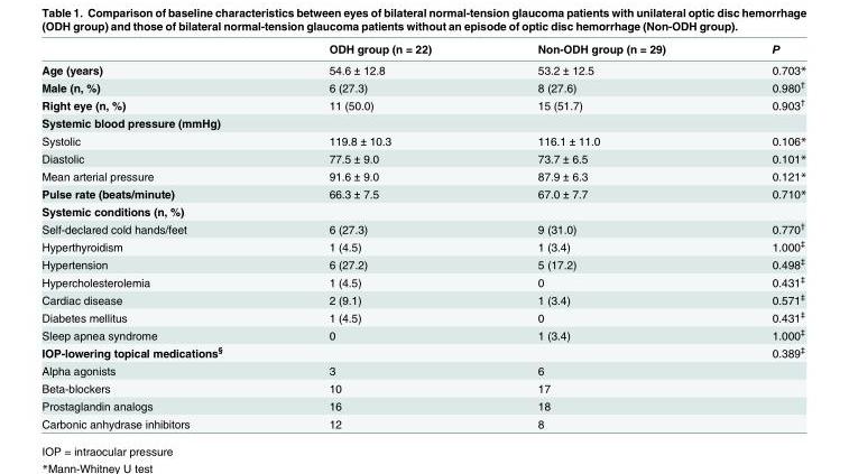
<table><thead><tr><td></td><td>ODH group (n = 22)</td><td>Non-ODH group (n = 29)</td><td>P</td></tr></thead><tbody><tr><td>Age (years)</td><td>54.6 ± 12.8</td><td>53.2 ± 12.5</td><td>0.703*</td></tr><tr><td>Male (n, %)</td><td>6 (27.3)</td><td>8 (27.6)</td><td>0.980<sup>†</sup></td></tr><tr><td>Right eye (n, %)</td><td>11 (50.0)</td><td>15 (51.7)</td><td>0.903<sup>†</sup></td></tr><tr><td colspan="4">Systemic blood pressure (mmHg)</td></tr><tr><td>Systolic</td><td>119.8 ± 10.3</td><td>116.1 ± 11.0</td><td>0.106*</td></tr><tr><td>Diastolic</td><td>77.5 ± 9.0</td><td>73.7 ± 6.5</td><td>0.101*</td></tr><tr><td>Mean arterial pressure</td><td>91.6 ± 9.0</td><td>87.9 ± 6.3</td><td>0.121*</td></tr><tr><td>Pulse rate (beats/minute)</td><td>66.3 ± 7.5</td><td>67.0 ± 7.7</td><td>0.710*</td></tr><tr><td colspan="4">Systemic conditions (n, %)</td></tr><tr><td>Self-declared cold hands/feet</td><td>6 (27.3)</td><td>9 (31.0)</td><td>0.770<sup>†</sup></td></tr><tr><td>Hyperthyroidism</td><td>1 (4.5)</td><td>1 (3.4)</td><td>1.000<sup>‡</sup></td></tr><tr><td>Hypertension</td><td>6 (27.2)</td><td>5 (17.2)</td><td>0.498<sup>‡</sup></td></tr><tr><td>Hypercholesterolemia</td><td>1 (4.5)</td><td>0</td><td>0.431<sup>‡</sup></td></tr><tr><td>Cardiac disease</td><td>2 (9.1)</td><td>1 (3.4)</td><td>0.571<sup>‡</sup></td></tr><tr><td>Diabetes mellitus</td><td>1 (4.5)</td><td>0</td><td>0.431<sup>‡</sup></td></tr><tr><td>Sleep apnea syndrome</td><td>0</td><td>1 (3.4)</td><td>1.000<sup>‡</sup></td></tr><tr><td>IOP-lowering topical medications<sup>§</sup></td><td></td><td></td><td>0.389<sup>‡</sup></td></tr><tr><td>Alpha agonists</td><td>3</td><td>6</td><td></td></tr><tr><td>Beta-blockers</td><td>10</td><td>17</td><td></td></tr><tr><td>Prostaglandin analogs</td><td>16</td><td>18</td><td></td></tr><tr><td>Carbonic anhydrase inhibitors</td><td>12</td><td>8</td><td></td></tr></tbody></table>